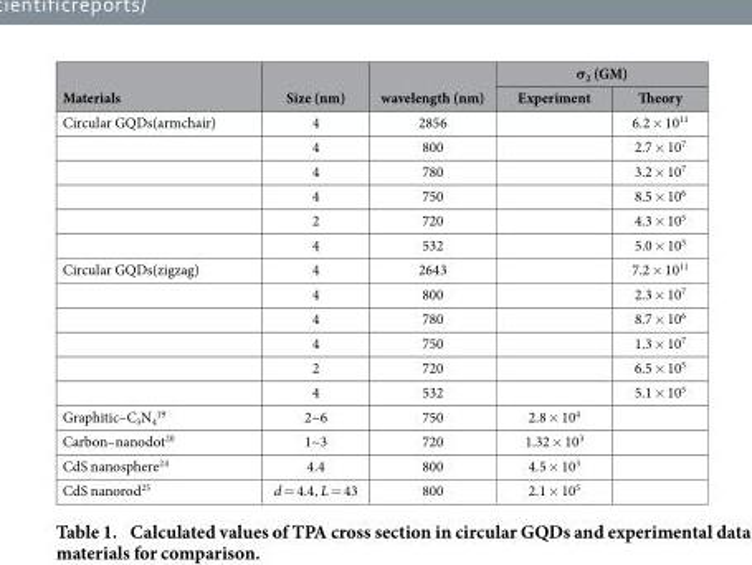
<table><thead><tr><td rowspan="2">Materials</td><td rowspan="2">Size (nm)</td><td rowspan="2">wavelength (nm)</td><td colspan="2">σ<sub>2</sub> (GM)</td></tr><tr><td>Experiment</td><td>Theory</td></tr></thead><tbody><tr><td rowspan="6">Circular GQDs(armchair)</td><td>4</td><td>2856</td><td></td><td>6.2 × 10<sup>11</sup></td></tr><tr><td>4</td><td>800</td><td></td><td>2.7 × 10<sup>7</sup></td></tr><tr><td>4</td><td>780</td><td></td><td>3.2 × 10<sup>7</sup></td></tr><tr><td>4</td><td>750</td><td></td><td>8.5 × 10<sup>6</sup></td></tr><tr><td>2</td><td>720</td><td></td><td>4.3 × 10<sup>5</sup></td></tr><tr><td>4</td><td>532</td><td></td><td>5.0 × 10<sup>5</sup></td></tr><tr><td rowspan="6">Circular GQDs(zigzag)</td><td>4</td><td>2643</td><td></td><td>7.2 × 10<sup>11</sup></td></tr><tr><td>4</td><td>800</td><td></td><td>2.3 × 10<sup>7</sup></td></tr><tr><td>4</td><td>780</td><td></td><td>8.7 × 10<sup>6</sup></td></tr><tr><td>4</td><td>750</td><td></td><td>1.3 × 10<sup>7</sup></td></tr><tr><td>2</td><td>720</td><td></td><td>6.5 × 10<sup>5</sup></td></tr><tr><td>4</td><td>532</td><td></td><td>5.1 × 10<sup>5</sup></td></tr><tr><td>Graphitic–C<sub>3</sub>N<sub>4</sub> <sup>19</sup></td><td>2~6</td><td>750</td><td>2.8 × 10<sup>4</sup></td><td></td></tr><tr><td>Carbon–nanodot<sup>20</sup></td><td>1~3</td><td>720</td><td>1.32 × 10<sup>3</sup></td><td></td></tr><tr><td>CdS nanosphere<sup>24</sup></td><td>4.4</td><td>800</td><td>4.5 × 10<sup>3</sup></td><td></td></tr><tr><td>CdS nanorod<sup>25</sup></td><td>d = 4.4, L = 43</td><td>800</td><td>2.1 × 10<sup>5</sup></td><td></td></tr></tbody></table>